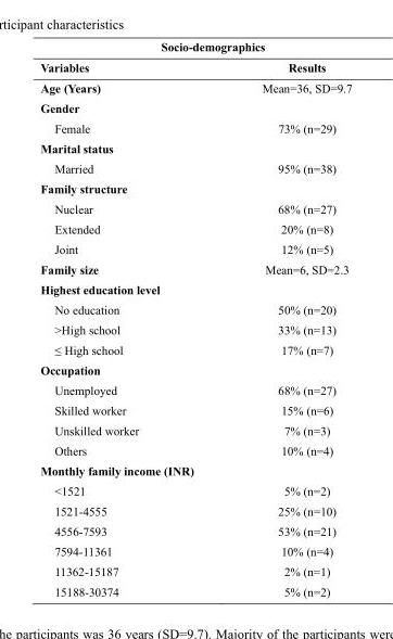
<table><thead><tr><td colspan="2">Socio-demographics</td></tr><tr><td>Variables</td><td>Results</td></tr></thead><tbody><tr><td>Age (Years)</td><td>Mean=36, SD=9.7</td></tr><tr><td colspan="2">Gender</td></tr><tr><td>Female</td><td>73% (n=29)</td></tr><tr><td colspan="2">Marital status</td></tr><tr><td>Married</td><td>95% (n=38)</td></tr><tr><td colspan="2">Family structure</td></tr><tr><td>Nuclear</td><td>68% (n=27)</td></tr><tr><td>Extended</td><td>20% (n=8)</td></tr><tr><td>Joint</td><td>12% (n=5)</td></tr><tr><td>Family size</td><td>Mean=6, SD=2.3</td></tr><tr><td colspan="2">Highest education level</td></tr><tr><td>No education</td><td>50% (n=20)</td></tr><tr><td>&gt;High school</td><td>33% (n=13)</td></tr><tr><td>≤ High school</td><td>17% (n=7)</td></tr><tr><td colspan="2">Occupation</td></tr><tr><td>Unemployed</td><td>68% (n=27)</td></tr><tr><td>Skilled worker</td><td>15% (n=6)</td></tr><tr><td>Unskilled worker</td><td>7% (n=3)</td></tr><tr><td>Others</td><td>10% (n=4)</td></tr><tr><td colspan="2">Monthly family income (INR)</td></tr><tr><td>&lt;1521</td><td>5% (n=2)</td></tr><tr><td>1521-4555</td><td>25% (n=10)</td></tr><tr><td>4556-7593</td><td>53% (n=21)</td></tr><tr><td>7594-11361</td><td>10% (n=4)</td></tr><tr><td>11362-15187</td><td>2% (n=1)</td></tr><tr><td>15188-30374</td><td>5% (n=2)</td></tr></tbody></table>